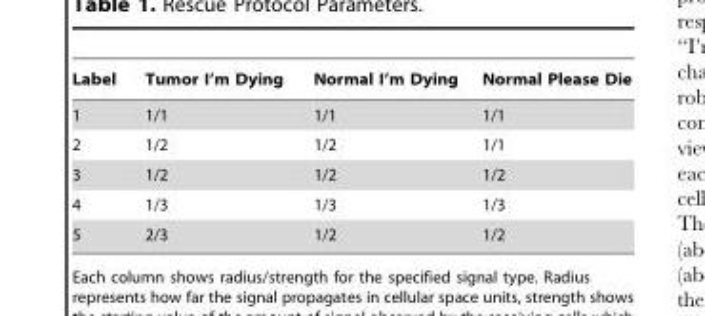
<table><thead><tr><td>Label</td><td>Tumor I’m Dying</td><td>Normal I’m Dying</td><td>Normal Please Die</td></tr></thead><tbody><tr><td>1</td><td>1/1</td><td>1/1</td><td>1/1</td></tr><tr><td>2</td><td>1/2</td><td>1/2</td><td>1/1</td></tr><tr><td>3</td><td>1/2</td><td>1/2</td><td>1/2</td></tr><tr><td>4</td><td>1/3</td><td>1/3</td><td>1/3</td></tr><tr><td>5</td><td>2/3</td><td>1/2</td><td>1/2</td></tr></tbody></table>